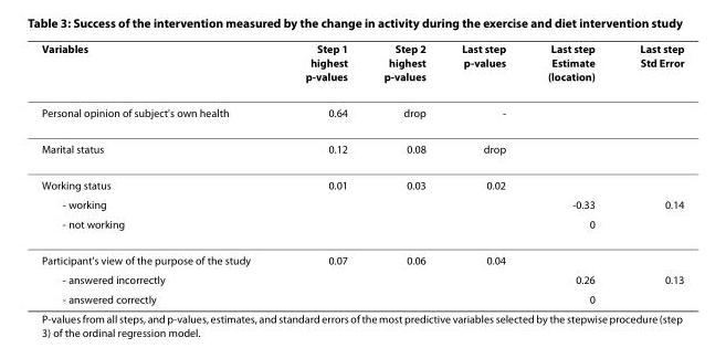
<table><thead><tr><td>Variables</td><td>Step 1 highest p-values</td><td>Step 2 highest p-values</td><td>Last step p-values</td><td>Last step Estimate (location)</td><td>Last step Std Error</td></tr></thead><tbody><tr><td>Personal opinion of subject&#x27;s own health</td><td>0.64</td><td>drop</td><td>-</td><td></td><td></td></tr><tr><td>Marital status</td><td>0.12</td><td>0.08</td><td>drop</td><td></td><td></td></tr><tr><td>Working status</td><td>0.01</td><td>0.03</td><td>0.02</td><td></td><td></td></tr><tr><td>- working</td><td></td><td></td><td></td><td>-0.33</td><td>0.14</td></tr><tr><td>- not working</td><td></td><td></td><td></td><td>0</td><td></td></tr><tr><td>Participant&#x27;s view of the purpose of the study</td><td>0.07</td><td>0.06</td><td>0.04</td><td></td><td></td></tr><tr><td>- answered incorrectly</td><td></td><td></td><td></td><td>0.26</td><td>0.13</td></tr><tr><td>- answered correctly</td><td></td><td></td><td></td><td>0</td><td></td></tr></tbody></table>